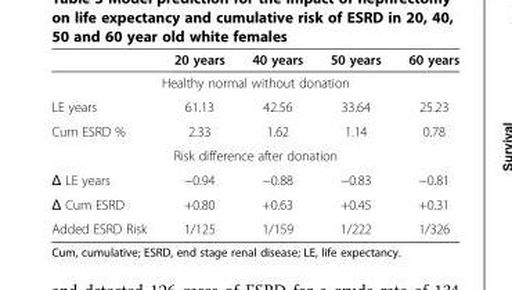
<table><thead><tr><td></td><td>20 years</td><td>40 years</td><td>50 years</td><td>60 years</td></tr></thead><tbody><tr><td colspan="5">Healthy normal without donation</td></tr><tr><td>LE years</td><td>61.13</td><td>42.56</td><td>33.64</td><td>25.23</td></tr><tr><td>Cum ESRD %</td><td>2.33</td><td>1.62</td><td>1.14</td><td>0.78</td></tr><tr><td colspan="5">Risk difference after donation</td></tr><tr><td>Δ LE years</td><td>−0.94</td><td>−0.88</td><td>−0.83</td><td>−0.81</td></tr><tr><td>Δ Cum ESRD</td><td>+0.80</td><td>+0.63</td><td>+0.45</td><td>+0.31</td></tr><tr><td>Added ESRD Risk</td><td>1/125</td><td>1/159</td><td>1/222</td><td>1/326</td></tr></tbody></table>